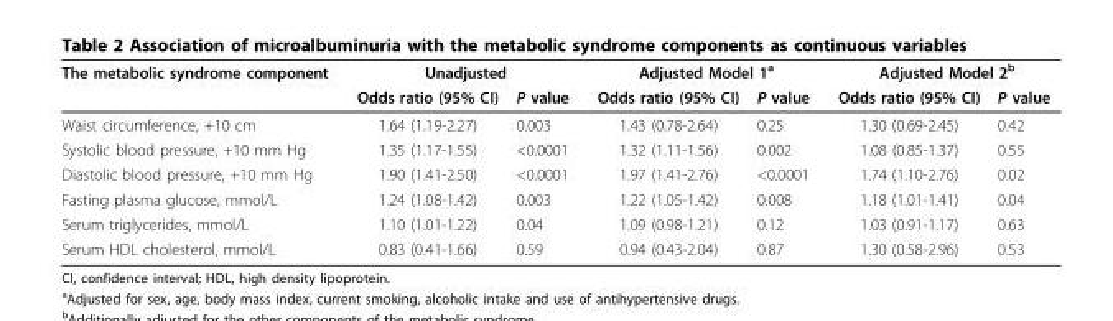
<table><thead><tr><td rowspan="2">The metabolic syndrome component</td><td colspan="2">Unadjusted</td><td colspan="2">Adjusted Model 1<sup>a</sup></td><td colspan="2">Adjusted Model 2<sup>b</sup></td></tr><tr><td>Odds ratio (95% CI)</td><td>P value</td><td>Odds ratio (95% CI)</td><td>P value</td><td>Odds ratio (95% CI)</td><td>P value</td></tr></thead><tbody><tr><td>Waist circumference, +10 cm</td><td>1.64 (1.19-2.27)</td><td>0.003</td><td>1.43 (0.78-2.64)</td><td>0.25</td><td>1.30 (0.69-2.45)</td><td>0.42</td></tr><tr><td>Systolic blood pressure, +10 mm Hg</td><td>1.35 (1.17-1.55)</td><td>&lt;0.0001</td><td>1.32 (1.11-1.56)</td><td>0.002</td><td>1.08 (0.85-1.37)</td><td>0.55</td></tr><tr><td>Diastolic blood pressure, +10 mm Hg</td><td>1.90 (1.41-2.50)</td><td>&lt;0.0001</td><td>1.97 (1.41-2.76)</td><td>&lt;0.0001</td><td>1.74 (1.10-2.76)</td><td>0.02</td></tr><tr><td>Fasting plasma glucose, mmol/L</td><td>1.24 (1.08-1.42)</td><td>0.003</td><td>1.22 (1.05-1.42)</td><td>0.008</td><td>1.18 (1.01-1.41)</td><td>0.04</td></tr><tr><td>Serum triglycerides, mmol/L</td><td>1.10 (1.01-1.22)</td><td>0.04</td><td>1.09 (0.98-1.21)</td><td>0.12</td><td>1.03 (0.91-1.17)</td><td>0.63</td></tr><tr><td>Serum HDL cholesterol, mmol/L</td><td>0.83 (0.41-1.66)</td><td>0.59</td><td>0.94 (0.43-2.04)</td><td>0.87</td><td>1.30 (0.58-2.96)</td><td>0.53</td></tr></tbody></table>